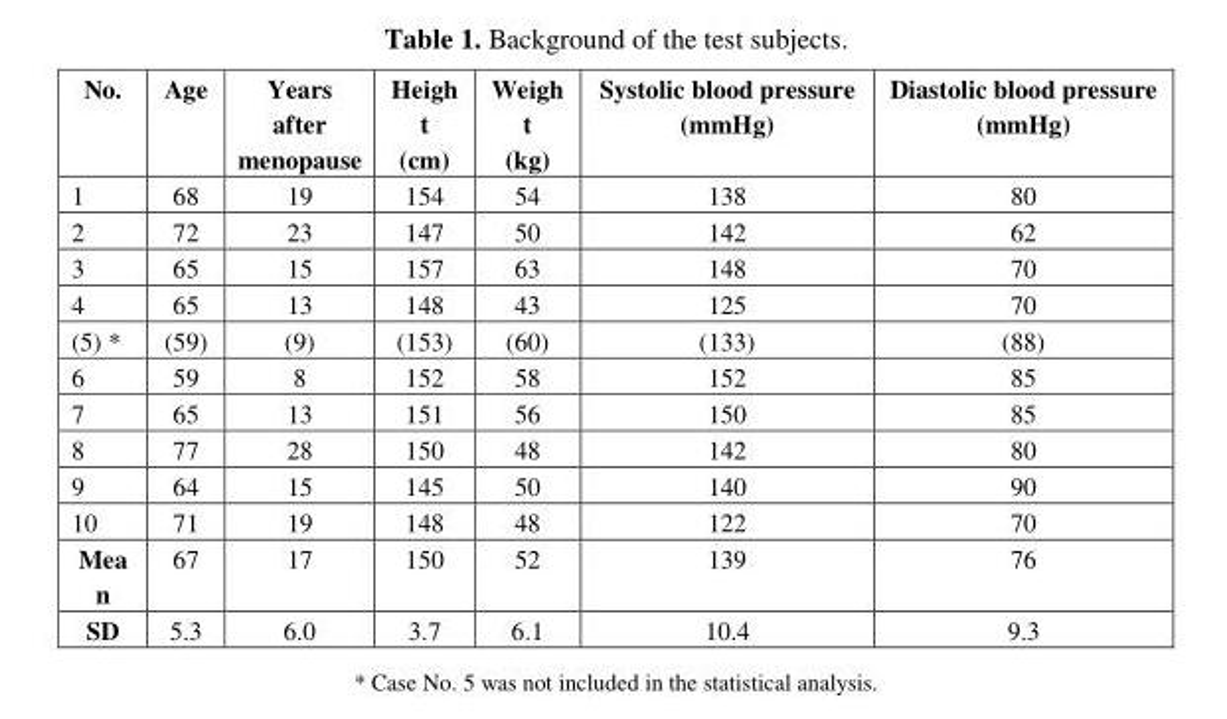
<table><thead><tr><td>No.</td><td>Age</td><td>Years after menopause</td><td>Heigh t (cm)</td><td>Weigh t (kg)</td><td>Systolic blood pressure (mmHg)</td><td>Diastolic blood pressure (mmHg)</td></tr></thead><tbody><tr><td>1</td><td>68</td><td>19</td><td>154</td><td>54</td><td>138</td><td>80</td></tr><tr><td>2</td><td>72</td><td>23</td><td>147</td><td>50</td><td>142</td><td>62</td></tr><tr><td>3</td><td>65</td><td>15</td><td>157</td><td>63</td><td>148</td><td>70</td></tr><tr><td>4</td><td>65</td><td>13</td><td>148</td><td>43</td><td>125</td><td>70</td></tr><tr><td>(5) *</td><td>(59)</td><td>(9)</td><td>(153)</td><td>(60)</td><td>(133)</td><td>(88)</td></tr><tr><td>6</td><td>59</td><td>8</td><td>152</td><td>58</td><td>152</td><td>85</td></tr><tr><td>7</td><td>65</td><td>13</td><td>151</td><td>56</td><td>150</td><td>85</td></tr><tr><td>8</td><td>77</td><td>28</td><td>150</td><td>48</td><td>142</td><td>80</td></tr><tr><td>9</td><td>64</td><td>15</td><td>145</td><td>50</td><td>140</td><td>90</td></tr><tr><td>10</td><td>71</td><td>19</td><td>148</td><td>48</td><td>122</td><td>70</td></tr><tr><td>Mea n</td><td>67</td><td>17</td><td>150</td><td>52</td><td>139</td><td>76</td></tr><tr><td>SD</td><td>5.3</td><td>6.0</td><td>3.7</td><td>6.1</td><td>10.4</td><td>9.3</td></tr></tbody></table>